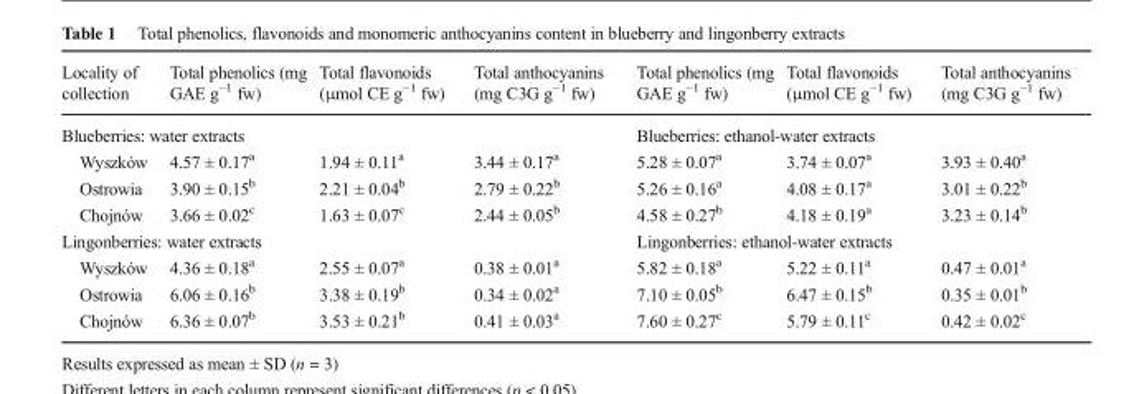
<table><thead><tr><td>Locality of collection</td><td>Total phenolics (mg GAE g<sup>−1</sup> fw)</td><td>Total flavonoids (μmol CE g<sup>−1</sup> fw)</td><td>Total anthocyanins (mg C3G g<sup>−1</sup> fw)</td><td>Total phenolics (mg GAE g<sup>−1</sup> fw)</td><td>Total flavonoids (μmol CE g<sup>−1</sup> fw)</td><td>Total anthocyanins (mg C3G g<sup>−1</sup> fw)</td></tr></thead><tbody><tr><td colspan="4">Blueberries: water extracts</td><td colspan="3">Blueberries: ethanol-water extracts</td></tr><tr><td>Wyszków</td><td>4.57 ± 0.17<sup>a</sup></td><td>1.94 ± 0.11<sup>a</sup></td><td>3.44 ± 0.17<sup>a</sup></td><td>5.28 ± 0.07<sup>a</sup></td><td>3.74 ± 0.07<sup>a</sup></td><td>3.93 ± 0.40<sup>a</sup></td></tr><tr><td>Ostrowia</td><td>3.90 ± 0.15<sup>b</sup></td><td>2.21 ± 0.04<sup>b</sup></td><td>2.79 ± 0.22<sup>b</sup></td><td>5.26 ± 0.16<sup>a</sup></td><td>4.08 ± 0.17<sup>a</sup></td><td>3.01 ± 0.22<sup>b</sup></td></tr><tr><td>Chojnów</td><td>3.66 ± 0.02<sup>c</sup></td><td>1.63 ± 0.07<sup>c</sup></td><td>2.44 ± 0.05<sup>b</sup></td><td>4.58 ± 0.27<sup>b</sup></td><td>4.18 ± 0.19<sup>a</sup></td><td>3.23 ± 0.14<sup>b</sup></td></tr><tr><td colspan="4">Lingonberries: water extracts</td><td colspan="3">Lingonberries: ethanol-water extracts</td></tr><tr><td>Wyszków</td><td>4.36 ± 0.18<sup>a</sup></td><td>2.55 ± 0.07<sup>a</sup></td><td>0.38 ± 0.01<sup>a</sup></td><td>5.82 ± 0.18<sup>a</sup></td><td>5.22 ± 0.11<sup>a</sup></td><td>0.47 ± 0.01<sup>a</sup></td></tr><tr><td>Ostrowia</td><td>6.06 ± 0.16<sup>b</sup></td><td>3.38 ± 0.19<sup>b</sup></td><td>0.34 ± 0.02<sup>a</sup></td><td>7.10 ± 0.05<sup>b</sup></td><td>6.47 ± 0.15<sup>b</sup></td><td>0.35 ± 0.01<sup>b</sup></td></tr><tr><td>Chojnów</td><td>6.36 ± 0.07<sup>b</sup></td><td>3.53 ± 0.21<sup>b</sup></td><td>0.41 ± 0.03<sup>a</sup></td><td>7.60 ± 0.27<sup>c</sup></td><td>5.79 ± 0.11<sup>c</sup></td><td>0.42 ± 0.02<sup>c</sup></td></tr></tbody></table>